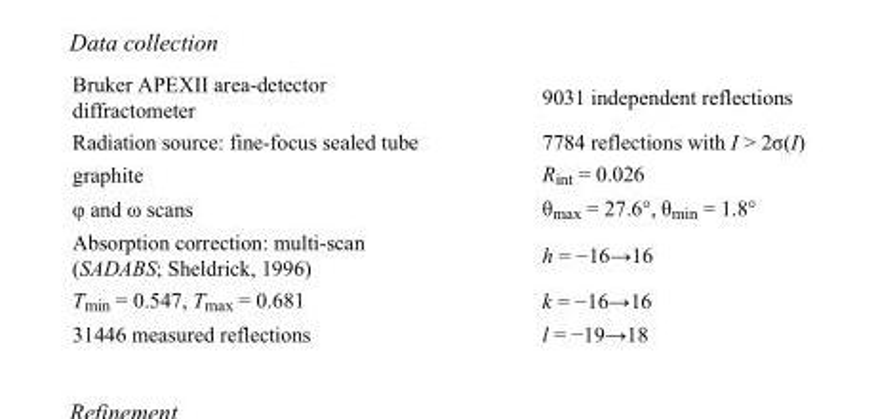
<table><tbody><tr><td>Bruker APEXII area-detector diffractometer</td><td>9031 independent reflections</td></tr><tr><td>Radiation source: fine-focus sealed tube</td><td>7784 reflections with I &gt; 2σ(I)</td></tr><tr><td>graphite</td><td>R<sub>int</sub> = 0.026</td></tr><tr><td>φ and ω scans</td><td>θ<sub>max</sub> = 27.6°, θ<sub>min</sub> = 1.8°</td></tr><tr><td>Absorption correction: multi-scan (SADABS; Sheldrick, 1996)</td><td>h = −16→16</td></tr><tr><td>T<sub>min</sub> = 0.547, T<sub>max</sub> = 0.681</td><td>k = −16→16</td></tr><tr><td>31446 measured reflections</td><td>l = −19→18</td></tr></tbody></table>